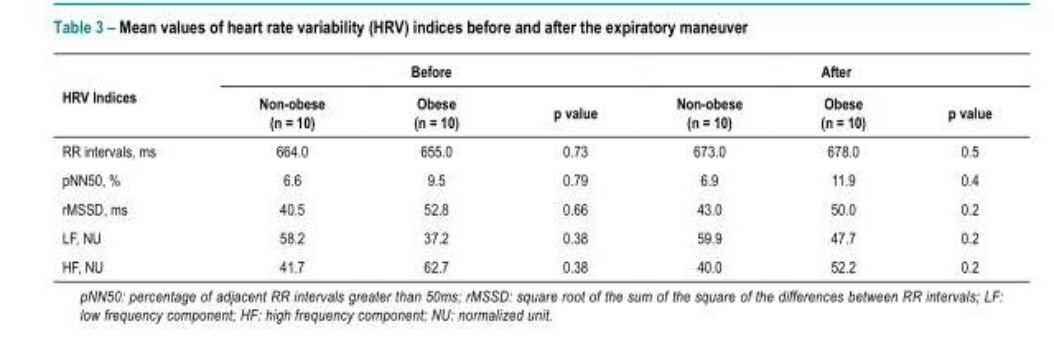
<table><thead><tr><td rowspan="2">HRV Indices</td><td colspan="3">Before</td><td colspan="3">After</td></tr><tr><td>Non-obese (n = 10)</td><td>Obese (n = 10)</td><td>p value</td><td>Non-obese (n = 10)</td><td>Obese (n = 10)</td><td>p value</td></tr></thead><tbody><tr><td>RR intervals, ms</td><td>664.0</td><td>655.0</td><td>0.73</td><td>673.0</td><td>678.0</td><td>0.5</td></tr><tr><td>pNN50, %</td><td>6.6</td><td>9.5</td><td>0.79</td><td>6.9</td><td>11.9</td><td>0.4</td></tr><tr><td>rMSSD, ms</td><td>40.5</td><td>52.8</td><td>0.66</td><td>43.0</td><td>50.0</td><td>0.2</td></tr><tr><td>LF, NU</td><td>58.2</td><td>37.2</td><td>0.38</td><td>59.9</td><td>47.7</td><td>0.2</td></tr><tr><td>HF, NU</td><td>41.7</td><td>62.7</td><td>0.38</td><td>40.0</td><td>52.2</td><td>0.2</td></tr></tbody></table>